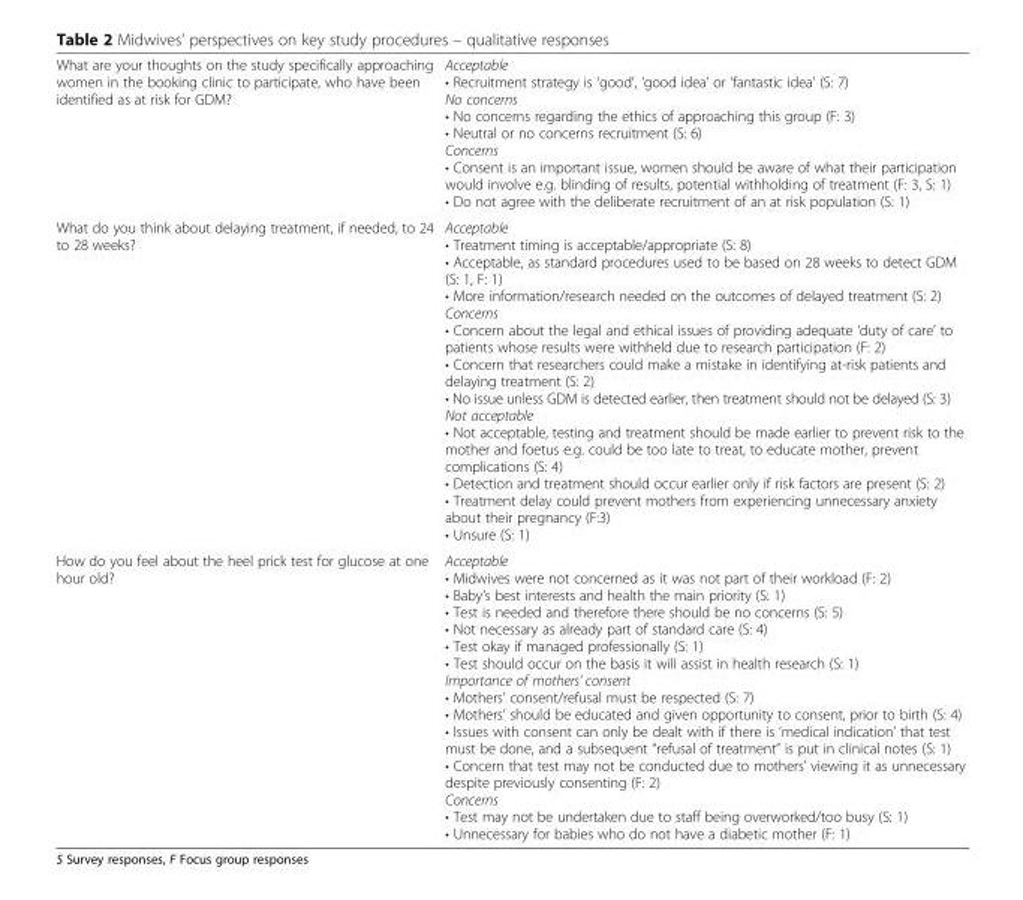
<table><tbody><tr><td>What are your thoughts on the study specifically approaching women in the booking clinic to participate, who have been identified as at risk for GDM?</td><td>Acceptable • Recruitment strategy is ‘good’, ‘good idea’ or ‘fantastic idea’ (S: 7) No concerns • No concerns regarding the ethics of approaching this group (F: 3) • Neutral or no concerns recruitment (S: 6) Concerns • Consent is an important issue, women should be aware of what their participation would involve e.g. blinding of results, potential withholding of treatment (F: 3, S: 1) • Do not agree with the deliberate recruitment of an at risk population (S: 1)</td></tr><tr><td>What do you think about delaying treatment, if needed, to 24 to 28 weeks?</td><td>Acceptable • Treatment timing is acceptable/appropriate (S: 8) • Acceptable, as standard procedures used to be based on 28 weeks to detect GDM (S: 1, F: 1) • More information/research needed on the outcomes of delayed treatment (S: 2) Concerns • Concern about the legal and ethical issues of providing adequate ‘duty of care’ to patients whose results were withheld due to research participation (F: 2) • Concern that researchers could make a mistake in identifying at-risk patients and delaying treatment (S: 2) • No issue unless GDM is detected earlier, then treatment should not be delayed (S: 3) Not acceptable • Not acceptable, testing and treatment should be made earlier to prevent risk to the mother and foetus e.g. could be too late to treat, to educate mother, prevent complications (S: 4) • Detection and treatment should occur earlier only if risk factors are present (S: 2) • Treatment delay could prevent mothers from experiencing unnecessary anxiety about their pregnancy (F:3) • Unsure (S: 1)</td></tr><tr><td>How do you feel about the heel prick test for glucose at one hour old?</td><td>Acceptable • Midwives were not concerned as it was not part of their workload (F: 2) • Baby’s best interests and health the main priority (S: 1) • Test is needed and therefore there should be no concerns (S: 5) • Not necessary as already part of standard care (S: 4) • Test okay if managed professionally (S: 1) • Test should occur on the basis it will assist in health research (S: 1) Importance of mothers’ consent • Mothers’ consent/refusal must be respected (S: 7) • Mothers’ should be educated and given opportunity to consent, prior to birth (S: 4) • Issues with consent can only be dealt with if there is ‘medical indication’ that test must be done, and a subsequent “refusal of treatment” is put in clinical notes (S: 1) • Concern that test may not be conducted due to mothers’ viewing it as unnecessary despite previously consenting (F: 2) Concerns • Test may not be undertaken due to staff being overworked/too busy (S: 1) • Unnecessary for babies who do not have a diabetic mother (F: 1)</td></tr></tbody></table>